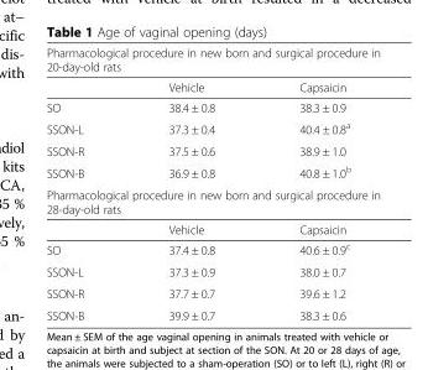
<table><thead><tr><td colspan="3">Pharmacological procedure in new born and surgical procedure in 20-day-old rats</td></tr><tr><td></td><td>Vehicle</td><td>Capsaicin</td></tr></thead><tbody><tr><td>SO</td><td>38.4 ± 0.8</td><td>38.3 ± 0.9</td></tr><tr><td>SSON-L</td><td>37.3 ± 0.4</td><td>40.4 ± 0.8<sup>a</sup></td></tr><tr><td>SSON-R</td><td>37.5 ± 0.6</td><td>38.9 ± 1.0</td></tr><tr><td>SSON-B</td><td>36.9 ± 0.8</td><td>40.8 ± 1.0<sup>b</sup></td></tr><tr><td colspan="3">Pharmacological procedure in new born and surgical procedure in 28-day-old rats</td></tr><tr><td></td><td>Vehicle</td><td>Capsaicin</td></tr><tr><td>SO</td><td>37.4 ± 0.8</td><td>40.6 ± 0.9<sup>c</sup></td></tr><tr><td>SSON-L</td><td>37.3 ± 0.9</td><td>38.0 ± 0.7</td></tr><tr><td>SSON-R</td><td>37.7 ± 0.7</td><td>39.6 ± 1.2</td></tr><tr><td>SSON-B</td><td>39.9 ± 0.7</td><td>38.3 ± 0.6</td></tr></tbody></table>